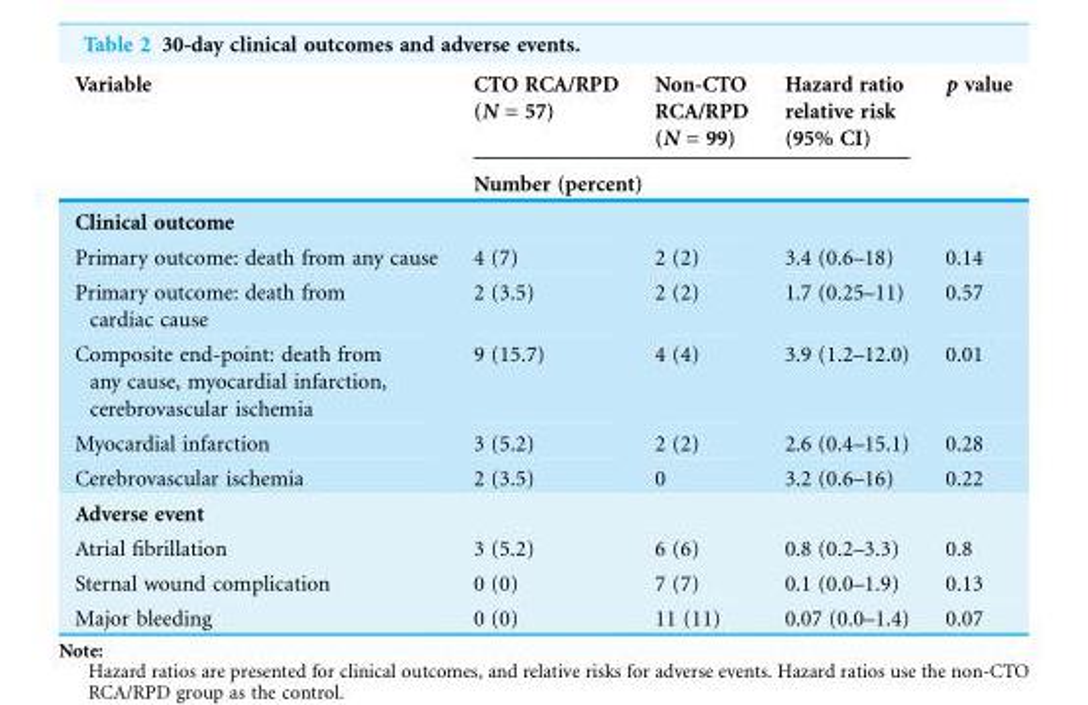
<table><thead><tr><td rowspan="2">Variable</td><td>CTO RCA/RPD (N = 57)</td><td>Non-CTO RCA/RPD (N = 99)</td><td rowspan="2">Hazard ratio relative risk (95% CI)</td><td rowspan="2">p value</td></tr><tr><td colspan="2">Number (percent)</td></tr></thead><tbody><tr><td colspan="5">Clinical outcome</td></tr><tr><td>Primary outcome: death from any cause</td><td>4 (7)</td><td>2 (2)</td><td>3.4 (0.6–18)</td><td>0.14</td></tr><tr><td>Primary outcome: death from cardiac cause</td><td>2 (3.5)</td><td>2 (2)</td><td>1.7 (0.25–11)</td><td>0.57</td></tr><tr><td>Composite end-point: death from any cause, myocardial infarction, cerebrovascular ischemia</td><td>9 (15.7)</td><td>4 (4)</td><td>3.9 (1.2–12.0)</td><td>0.01</td></tr><tr><td>Myocardial infarction</td><td>3 (5.2)</td><td>2 (2)</td><td>2.6 (0.4–15.1)</td><td>0.28</td></tr><tr><td>Cerebrovascular ischemia</td><td>2 (3.5)</td><td>0</td><td>3.2 (0.6–16)</td><td>0.22</td></tr><tr><td colspan="5">Adverse event</td></tr><tr><td>Atrial fibrillation</td><td>3 (5.2)</td><td>6 (6)</td><td>0.8 (0.2–3.3)</td><td>0.8</td></tr><tr><td>Sternal wound complication</td><td>0 (0)</td><td>7 (7)</td><td>0.1 (0.0–1.9)</td><td>0.13</td></tr><tr><td>Major bleeding</td><td>0 (0)</td><td>11 (11)</td><td>0.07 (0.0–1.4)</td><td>0.07</td></tr></tbody></table>